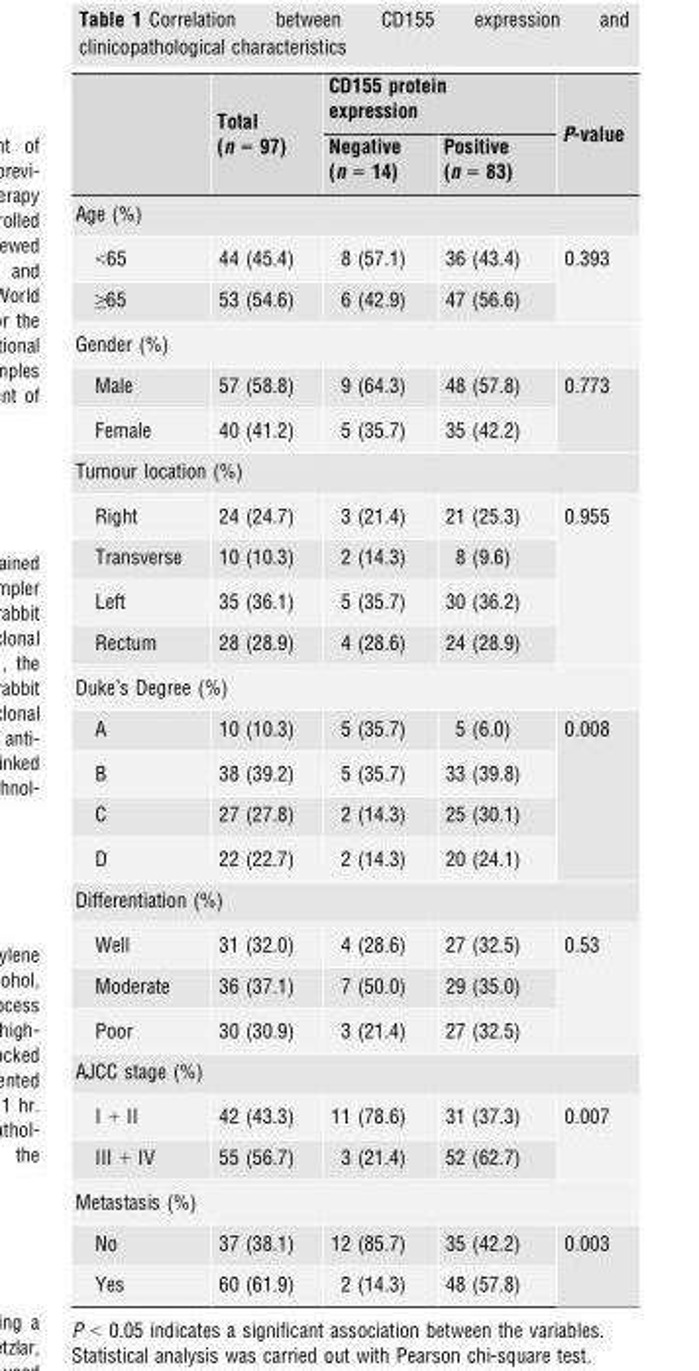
<table><thead><tr><td rowspan="2"></td><td rowspan="2">Total (n = 97)</td><td colspan="2">CD155 protein expression</td><td rowspan="2">P-value</td></tr><tr><td>Negative (n = 14)</td><td>Positive (n = 83)</td></tr></thead><tbody><tr><td colspan="5">Age (%)</td></tr><tr><td>&lt;65</td><td>44 (45.4)</td><td>8 (57.1)</td><td>36 (43.4)</td><td rowspan="2">0.393</td></tr><tr><td>≥65</td><td>53 (54.6)</td><td>6 (42.9)</td><td>47 (56.6)</td></tr><tr><td colspan="5">Gender (%)</td></tr><tr><td>Male</td><td>57 (58.8)</td><td>9 (64.3)</td><td>48 (57.8)</td><td rowspan="2">0.773</td></tr><tr><td>Female</td><td>40 (41.2)</td><td>5 (35.7)</td><td>35 (42.2)</td></tr><tr><td colspan="5">Tumour location (%)</td></tr><tr><td>Right</td><td>24 (24.7)</td><td>3 (21.4)</td><td>21 (25.3)</td><td rowspan="4">0.955</td></tr><tr><td>Transverse</td><td>10 (10.3)</td><td>2 (14.3)</td><td>8 (9.6)</td></tr><tr><td>Left</td><td>35 (36.1)</td><td>5 (35.7)</td><td>30 (36.2)</td></tr><tr><td>Rectum</td><td>28 (28.9)</td><td>4 (28.6)</td><td>24 (28.9)</td></tr><tr><td colspan="5">Duke’s Degree (%)</td></tr><tr><td>A</td><td>10 (10.3)</td><td>5 (35.7)</td><td>5 (6.0)</td><td rowspan="4">0.008</td></tr><tr><td>B</td><td>38 (39.2)</td><td>5 (35.7)</td><td>33 (39.8)</td></tr><tr><td>C</td><td>27 (27.8)</td><td>2 (14.3)</td><td>25 (30.1)</td></tr><tr><td>D</td><td>22 (22.7)</td><td>2 (14.3)</td><td>20 (24.1)</td></tr><tr><td colspan="5">Differentiation (%)</td></tr><tr><td>Well</td><td>31 (32.0)</td><td>4 (28.6)</td><td>27 (32.5)</td><td rowspan="3">0.53</td></tr><tr><td>Moderate</td><td>36 (37.1)</td><td>7 (50.0)</td><td>29 (35.0)</td></tr><tr><td>Poor</td><td>30 (30.9)</td><td>3 (21.4)</td><td>27 (32.5)</td></tr><tr><td colspan="5">AJCC stage (%)</td></tr><tr><td>I + II</td><td>42 (43.3)</td><td>11 (78.6)</td><td>31 (37.3)</td><td rowspan="2">0.007</td></tr><tr><td>III + IV</td><td>55 (56.7)</td><td>3 (21.4)</td><td>52 (62.7)</td></tr><tr><td colspan="5">Metastasis (%)</td></tr><tr><td>No</td><td>37 (38.1)</td><td>12 (85.7)</td><td>35 (42.2)</td><td rowspan="2">0.003</td></tr><tr><td>Yes</td><td>60 (61.9)</td><td>2 (14.3)</td><td>48 (57.8)</td></tr></tbody></table>